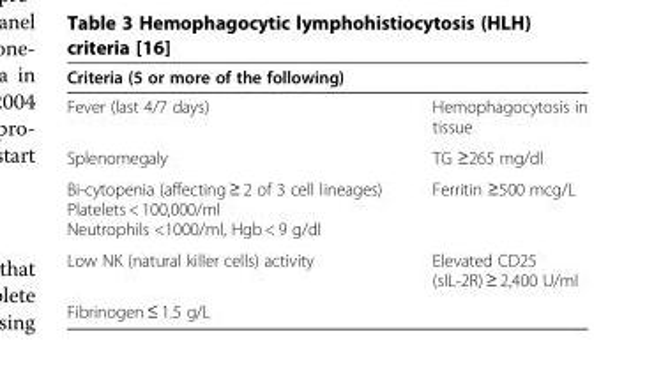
<table><thead><tr><td colspan="2">Criteria (5 or more of the following)</td></tr><tr><td>Fever (last 4/7 days)</td><td>Hemophagocytosis in tissue</td></tr></thead><tbody><tr><td>Splenomegaly</td><td>TG ≥265 mg/dl</td></tr><tr><td>Bi-cytopenia (affecting ≥ 2 of 3 cell lineages) Platelets &lt; 100,000/ml Neutrophils &lt;1000/ml, Hgb &lt; 9 g/dl</td><td>Ferritin ≥500 mcg/L</td></tr><tr><td>Low NK (natural killer cells) activity</td><td>Elevated CD25 (sIL-2R) ≥ 2,400 U/ml</td></tr><tr><td>Fibrinogen ≤ 1.5 g/L</td><td></td></tr></tbody></table>